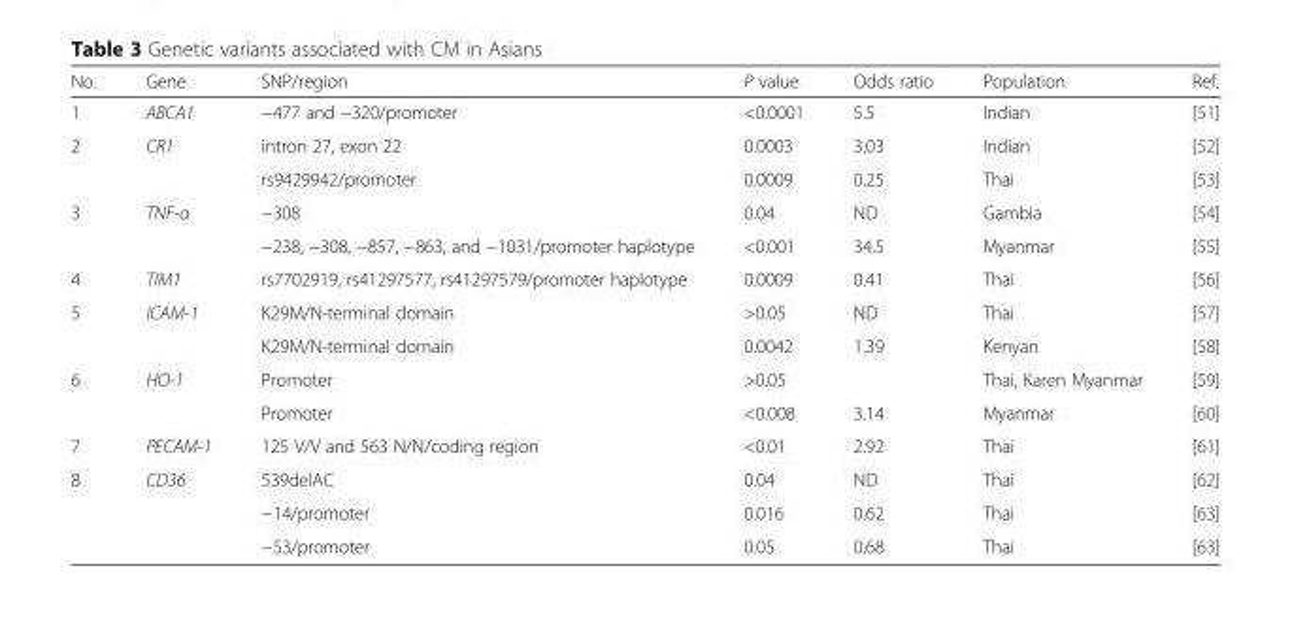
<table><thead><tr><td>No.</td><td>Gene</td><td>SNP/region</td><td>P value</td><td>Odds ratio</td><td>Population</td><td>Ref.</td></tr></thead><tbody><tr><td>1</td><td>ABCA1</td><td>−477 and −320/promoter</td><td>&lt;0.0001</td><td>5.5</td><td>Indian</td><td>[51]</td></tr><tr><td rowspan="2">2</td><td rowspan="2">CR1</td><td>intron 27, exon 22</td><td>0.0003</td><td>3.03</td><td>Indian</td><td>[52]</td></tr><tr><td>rs9429942/promoter</td><td>0.0009</td><td>0.25</td><td>Thai</td><td>[53]</td></tr><tr><td rowspan="2">3</td><td rowspan="2">TNF-α</td><td>−308</td><td>0.04</td><td>ND</td><td>Gambia</td><td>[54]</td></tr><tr><td>−238, −308, −857, −863, and −1031/promoter haplotype</td><td>&lt;0.001</td><td>34.5</td><td>Myanmar</td><td>[55]</td></tr><tr><td>4</td><td>TIM1</td><td>rs7702919, rs41297577, rs41297579/promoter haplotype</td><td>0.0009</td><td>0.41</td><td>Thai</td><td>[56]</td></tr><tr><td rowspan="2">5</td><td rowspan="2">ICAM-1</td><td>K29M/N-terminal domain</td><td>&gt;0.05</td><td>ND</td><td>Thai</td><td>[57]</td></tr><tr><td>K29M/N-terminal domain</td><td>0.0042</td><td>1.39</td><td>Kenyan</td><td>[58]</td></tr><tr><td rowspan="2">6</td><td rowspan="2">HO-1</td><td>Promoter</td><td>&gt;0.05</td><td></td><td>Thai, Karen Myanmar</td><td>[59]</td></tr><tr><td>Promoter</td><td>&lt;0.008</td><td>3.14</td><td>Myanmar</td><td>[60]</td></tr><tr><td>7</td><td>PECAM-1</td><td>125 V/V and 563 N/N/coding region</td><td>&lt;0.01</td><td>2.92</td><td>Thai</td><td>[61]</td></tr><tr><td rowspan="3">8</td><td rowspan="3">CD36</td><td>539delAC</td><td>0.04</td><td>ND</td><td>Thai</td><td>[62]</td></tr><tr><td>−14/promoter</td><td>0.016</td><td>0.62</td><td>Thai</td><td>[63]</td></tr><tr><td>−53/promoter</td><td>0.05</td><td>0.68</td><td>Thai</td><td>[63]</td></tr></tbody></table>